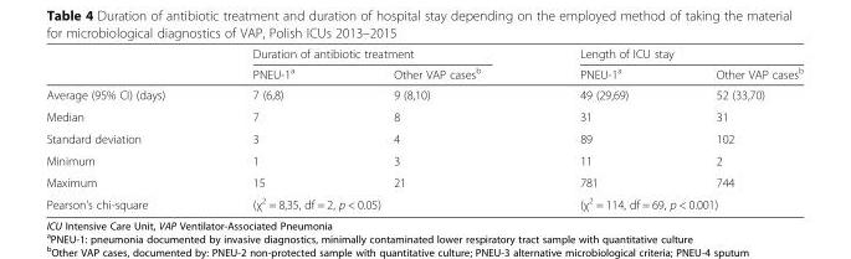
<table><thead><tr><td rowspan="2"></td><td colspan="2">Duration of antibiotic treatment</td><td colspan="2">Length of ICU stay</td></tr><tr><td>PNEU-1<sup>a</sup></td><td>Other VAP cases<sup>b</sup></td><td>PNEU-1<sup>a</sup></td><td>Other VAP cases<sup>b</sup></td></tr></thead><tbody><tr><td>Average (95% CI) (days)</td><td>7 (6,8)</td><td>9 (8,10)</td><td>49 (29,69)</td><td>52 (33,70)</td></tr><tr><td>Median</td><td>7</td><td>8</td><td>31</td><td>31</td></tr><tr><td>Standard deviation</td><td>3</td><td>4</td><td>89</td><td>102</td></tr><tr><td>Minimum</td><td>1</td><td>3</td><td>11</td><td>2</td></tr><tr><td>Maximum</td><td>15</td><td>21</td><td>781</td><td>744</td></tr><tr><td>Pearson’s chi-square</td><td colspan="2">(χ<sup>2</sup> = 8,35, df = 2, p &lt; 0.05)</td><td colspan="2">(χ<sup>2</sup> = 114, df = 69, p &lt; 0.001)</td></tr></tbody></table>